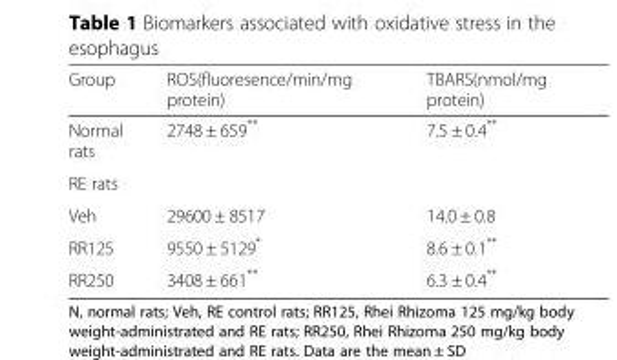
<table><thead><tr><td>Group</td><td>ROS(fluoresence/min/mg protein)</td><td>TBARS(nmol/mg protein)</td></tr></thead><tbody><tr><td>Normal rats</td><td>2748 ± 659**</td><td>7.5 ± 0.4**</td></tr><tr><td colspan="3">RE rats</td></tr><tr><td>Veh</td><td>29600 ± 8517</td><td>14.0 ± 0.8</td></tr><tr><td>RR125</td><td>9550 ± 5129*</td><td>8.6 ± 0.1**</td></tr><tr><td>RR250</td><td>3408 ± 661**</td><td>6.3 ± 0.4**</td></tr></tbody></table>